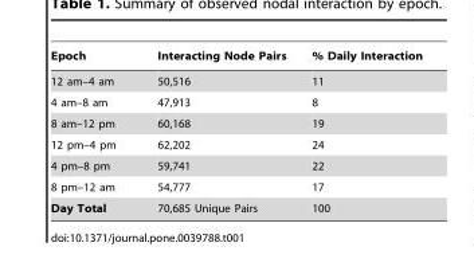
<table><thead><tr><td>Epoch</td><td>Interacting Node Pairs</td><td>% Daily Interaction</td></tr></thead><tbody><tr><td>12 am–4 am</td><td>50,516</td><td>11</td></tr><tr><td>4 am–8 am</td><td>47,913</td><td>8</td></tr><tr><td>8 am–12 pm</td><td>60,168</td><td>19</td></tr><tr><td>12 pm–4 pm</td><td>62,202</td><td>24</td></tr><tr><td>4 pm–8 pm</td><td>59,741</td><td>22</td></tr><tr><td>8 pm–12 am</td><td>54,777</td><td>17</td></tr><tr><td>Day Total</td><td>70,685 Unique Pairs</td><td>100</td></tr></tbody></table>